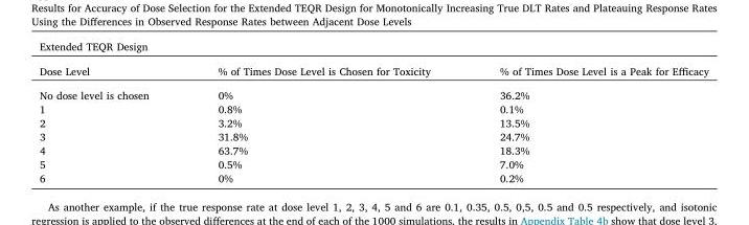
<table><thead><tr><td colspan="3">Extended TEQR Design</td></tr><tr><td>Dose Level</td><td>% of Times Dose Level is Chosen for Toxicity</td><td>% of Times Dose Level is a Peak for Efficacy</td></tr></thead><tbody><tr><td>No dose level is chosen</td><td>0%</td><td>36.2%</td></tr><tr><td>1</td><td>0.8%</td><td>0.1%</td></tr><tr><td>2</td><td>3.2%</td><td>13.5%</td></tr><tr><td>3</td><td>31.8%</td><td>24.7%</td></tr><tr><td>4</td><td>63.7%</td><td>18.3%</td></tr><tr><td>5</td><td>0.5%</td><td>7.0%</td></tr><tr><td>6</td><td>0%</td><td>0.2%</td></tr></tbody></table>